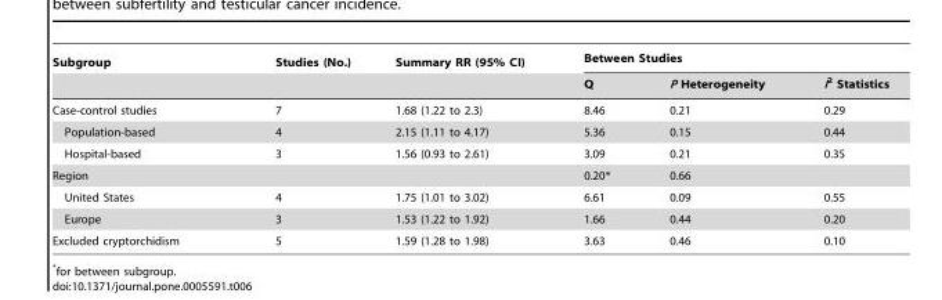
<table><thead><tr><td rowspan="2">Subgroup</td><td rowspan="2">Studies (No.)</td><td rowspan="2">Summary RR (95% CI)</td><td colspan="3">Between Studies</td></tr><tr><td>Q</td><td>P Heterogeneity</td><td>I<sup>2</sup> Statistics</td></tr></thead><tbody><tr><td>Case-control studies</td><td>7</td><td>1.68 (1.22 to 2.3)</td><td>8.46</td><td>0.21</td><td>0.29</td></tr><tr><td>Population-based</td><td>4</td><td>2.15 (1.11 to 4.17)</td><td>5.36</td><td>0.15</td><td>0.44</td></tr><tr><td>Hospital-based</td><td>3</td><td>1.56 (0.93 to 2.61)</td><td>3.09</td><td>0.21</td><td>0.35</td></tr><tr><td>Region</td><td></td><td></td><td>0.20*</td><td>0.66</td><td></td></tr><tr><td>United States</td><td>4</td><td>1.75 (1.01 to 3.02)</td><td>6.61</td><td>0.09</td><td>0.55</td></tr><tr><td>Europe</td><td>3</td><td>1.53 (1.22 to 1.92)</td><td>1.66</td><td>0.44</td><td>0.20</td></tr><tr><td>Excluded cryptorchidism</td><td>5</td><td>1.59 (1.28 to 1.98)</td><td>3.63</td><td>0.46</td><td>0.10</td></tr></tbody></table>